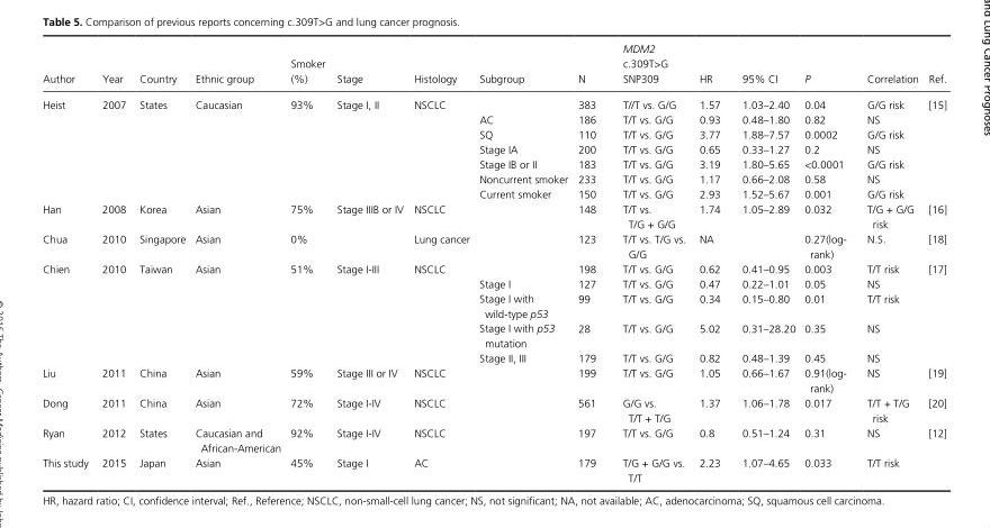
<table><thead><tr><td>Author</td><td>Year</td><td>Country</td><td>Ethnic group</td><td>Smoker (%)</td><td>Stage</td><td>Histology</td><td>Subgroup</td><td>N</td><td>MDM2 c.309T&gt;G SNP309</td><td>HR</td><td>95% CI</td><td>P</td><td>Correlation</td><td>Ref.</td></tr></thead><tbody><tr><td rowspan="7">Heist</td><td rowspan="7">2007</td><td rowspan="7">States</td><td rowspan="7">Caucasian</td><td rowspan="7">93%</td><td rowspan="7">Stage I, II</td><td rowspan="7">NSCLC</td><td></td><td>383</td><td>T//T vs. G/G</td><td>1.57</td><td>1.03–2.40</td><td>0.04</td><td>G/G risk</td><td>[15]</td></tr><tr><td>AC</td><td>186</td><td>T/T vs. G/G</td><td>0.93</td><td>0.48–1.80</td><td>0.82</td><td>NS</td><td></td></tr><tr><td>SQ</td><td>110</td><td>T/T vs. G/G</td><td>3.77</td><td>1.88–7.57</td><td>0.0002</td><td>G/G risk</td><td></td></tr><tr><td>Stage IA</td><td>200</td><td>T/T vs. G/G</td><td>0.65</td><td>0.33–1.27</td><td>0.2</td><td>NS</td><td></td></tr><tr><td>Stage IB or II</td><td>183</td><td>T/T vs. G/G</td><td>3.19</td><td>1.80–5.65</td><td>&lt;0.0001</td><td>G/G risk</td><td></td></tr><tr><td>Noncurrent smoker</td><td>233</td><td>T/T vs. G/G</td><td>1.17</td><td>0.66–2.08</td><td>0.58</td><td>NS</td><td></td></tr><tr><td>Current smoker</td><td>150</td><td>T/T vs. G/G</td><td>2.93</td><td>1.52–5.67</td><td>0.001</td><td>G/G risk</td><td></td></tr><tr><td>Han</td><td>2008</td><td>Korea</td><td>Asian</td><td>75%</td><td>Stage IIIB or IV</td><td>NSCLC</td><td></td><td>148</td><td>T/T vs. T/G + G/G</td><td>1.74</td><td>1.05–2.89</td><td>0.032</td><td>T/G + G/G risk</td><td>[16]</td></tr><tr><td>Chua</td><td>2010</td><td>Singapore</td><td>Asian</td><td>0%</td><td></td><td>Lung cancer</td><td></td><td>123</td><td>T/T vs. T/G vs. G/G</td><td>NA</td><td></td><td>0.27(log- rank)</td><td>N.S.</td><td>[18]</td></tr><tr><td rowspan="5">Chien</td><td rowspan="5">2010</td><td rowspan="5">Taiwan</td><td rowspan="5">Asian</td><td rowspan="5">51%</td><td rowspan="5">Stage I- III</td><td rowspan="5">NSCLC</td><td></td><td>198</td><td>T/T vs. G/G</td><td>0.62</td><td>0.41–0.95</td><td>0.003</td><td>T/T risk</td><td>[17]</td></tr><tr><td>Stage I</td><td>127</td><td>T/T vs. G/G</td><td>0.47</td><td>0.22–1.01</td><td>0.05</td><td>NS</td><td></td></tr><tr><td>Stage I with wild- type p53</td><td>99</td><td>T/T vs. G/G</td><td>0.34</td><td>0.15–0.80</td><td>0.01</td><td>T/T risk</td><td></td></tr><tr><td>Stage I with p53 mutation</td><td>28</td><td>T/T vs. G/G</td><td>5.02</td><td>0.31–28.20</td><td>0.35</td><td>NS</td><td></td></tr><tr><td>Stage II, III</td><td>179</td><td>T/T vs. G/G</td><td>0.82</td><td>0.48–1.39</td><td>0.45</td><td>NS</td><td></td></tr><tr><td>Liu</td><td>2011</td><td>China</td><td>Asian</td><td>59%</td><td>Stage III or IV</td><td>NSCLC</td><td></td><td>199</td><td>T/T vs. G/G</td><td>1.05</td><td>0.66–1.67</td><td>0.91(log- rank)</td><td>NS</td><td>[19]</td></tr><tr><td>Dong</td><td>2011</td><td>China</td><td>Asian</td><td>72%</td><td>Stage I- IV</td><td>NSCLC</td><td></td><td>561</td><td>G/G vs. T/T + T/G</td><td>1.37</td><td>1.06–1.78</td><td>0.017</td><td>T/T + T/G risk</td><td>[20]</td></tr><tr><td>Ryan</td><td>2012</td><td>States</td><td>Caucasian and African- American</td><td>92%</td><td>Stage I- IV</td><td>NSCLC</td><td></td><td>197</td><td>T/T vs. G/G</td><td>0.8</td><td>0.51–1.24</td><td>0.31</td><td>NS</td><td>[12]</td></tr><tr><td>This study</td><td>2015</td><td>Japan</td><td>Asian</td><td>45%</td><td>Stage I</td><td>AC</td><td></td><td>179</td><td>T/G + G/G vs. T/T</td><td>2.23</td><td>1.07–4.65</td><td>0.033</td><td>T/T risk</td><td></td></tr></tbody></table>